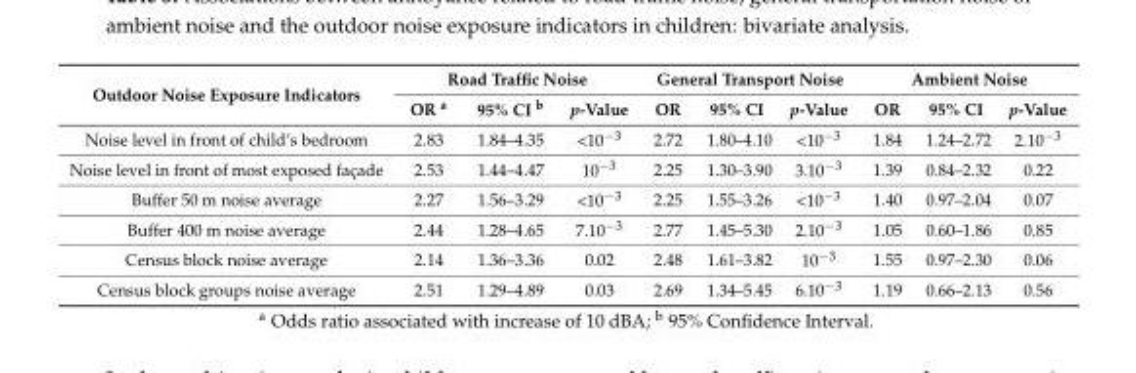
<table><thead><tr><td rowspan="2">Outdoor Noise Exposure Indicators</td><td colspan="3">Road Traffic Noise</td><td colspan="3">General Transport Noise</td><td colspan="3">Ambient Noise</td></tr><tr><td>OR <sup>a</sup></td><td>95% CI <sup>b</sup></td><td>p-Value</td><td>OR</td><td>95% CI</td><td>p-Value</td><td>OR</td><td>95% CI</td><td>p-Value</td></tr></thead><tbody><tr><td>Noise level in front of child’s bedroom</td><td>2.83</td><td>1.84–4.35</td><td>&lt;10<sup>−3</sup></td><td>2.72</td><td>1.80–4.10</td><td>&lt;10<sup>−3</sup></td><td>1.84</td><td>1.24–2.72</td><td>2.10<sup>−3</sup></td></tr><tr><td>Noise level in front of most exposed façade</td><td>2.53</td><td>1.44–4.47</td><td>10<sup>−3</sup></td><td>2.25</td><td>1.30–3.90</td><td>3.10<sup>−3</sup></td><td>1.39</td><td>0.84–2.32</td><td>0.22</td></tr><tr><td>Buffer 50 m noise average</td><td>2.27</td><td>1.56–3.29</td><td>&lt;10<sup>−3</sup></td><td>2.25</td><td>1.55–3.26</td><td>&lt;10<sup>−3</sup></td><td>1.40</td><td>0.97–2.04</td><td>0.07</td></tr><tr><td>Buffer 400 m noise average</td><td>2.44</td><td>1.28–4.65</td><td>7.10<sup>−3</sup></td><td>2.77</td><td>1.45–5.30</td><td>2.10<sup>−3</sup></td><td>1.05</td><td>0.60–1.86</td><td>0.85</td></tr><tr><td>Census block noise average</td><td>2.14</td><td>1.36–3.36</td><td>0.02</td><td>2.48</td><td>1.61–3.82</td><td>10<sup>−3</sup></td><td>1.55</td><td>0.97–2.30</td><td>0.06</td></tr><tr><td>Census block groups noise average</td><td>2.51</td><td>1.29–4.89</td><td>0.03</td><td>2.69</td><td>1.34–5.45</td><td>6.10<sup>−3</sup></td><td>1.19</td><td>0.66–2.13</td><td>0.56</td></tr></tbody></table>